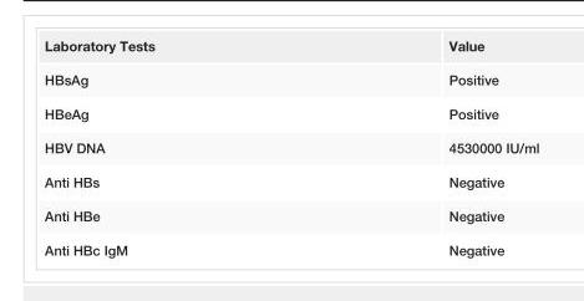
<table><tbody><tr><td>Laboratory Tests</td><td>Value</td></tr><tr><td>HBsAg</td><td>Positive</td></tr><tr><td>HBeAg</td><td>Positive</td></tr><tr><td>HBV DNA</td><td>4530000 IU/ml</td></tr><tr><td>Anti HBs</td><td>Negative</td></tr><tr><td>Anti HBe</td><td>Negative</td></tr><tr><td>Anti HBc IgM</td><td>Negative</td></tr></tbody></table>